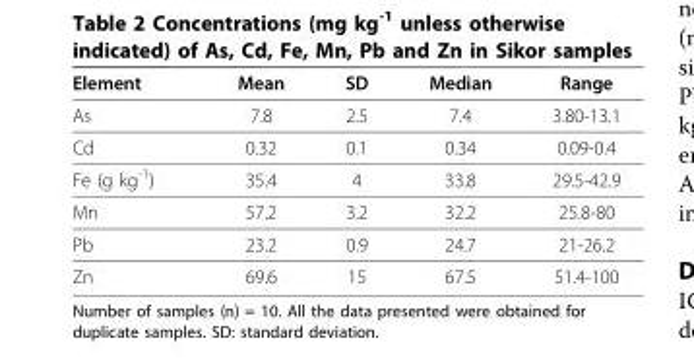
<table><thead><tr><td>Element</td><td>Mean</td><td>SD</td><td>Median</td><td>Range</td></tr></thead><tbody><tr><td>As</td><td>7.8</td><td>2.5</td><td>7.4</td><td>3.80-13.1</td></tr><tr><td>Cd</td><td>0.32</td><td>0.1</td><td>0.34</td><td>0.09-0.4</td></tr><tr><td>Fe (g kg<sup>-1</sup>)</td><td>35.4</td><td>4</td><td>33.8</td><td>29.5-42.9</td></tr><tr><td>Mn</td><td>57.2</td><td>3.2</td><td>32.2</td><td>25.8-80</td></tr><tr><td>Pb</td><td>23.2</td><td>0.9</td><td>24.7</td><td>21-26.2</td></tr><tr><td>Zn</td><td>69.6</td><td>15</td><td>67.5</td><td>51.4-100</td></tr></tbody></table>